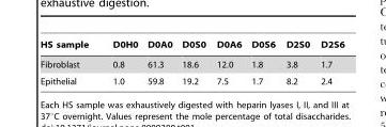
<table><thead><tr><td>HS sample</td><td>D0H0</td><td>D0A0</td><td>D0S0</td><td>D0A6</td><td>D0S6</td><td>D2S0</td><td>D2S6</td></tr></thead><tbody><tr><td>Fibroblast</td><td>0.8</td><td>61.3</td><td>18.6</td><td>12.0</td><td>1.8</td><td>3.8</td><td>1.7</td></tr><tr><td>Epithelial</td><td>1.0</td><td>59.8</td><td>19.2</td><td>7.5</td><td>1.7</td><td>8.2</td><td>2.4</td></tr></tbody></table>